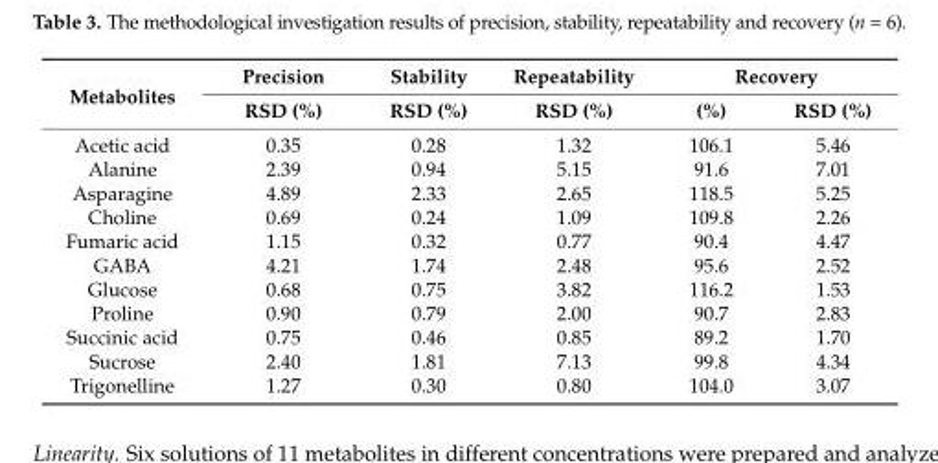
<table><thead><tr><td rowspan="2">Metabolites</td><td rowspan="2">Precision RSD (%)</td><td rowspan="2">Stability RSD (%)</td><td rowspan="2">Repeatability RSD (%)</td><td colspan="2">Recovery</td></tr><tr><td>(%)</td><td>RSD (%)</td></tr></thead><tbody><tr><td>Acetic acid</td><td>0.35</td><td>0.28</td><td>1.32</td><td>106.1</td><td>5.46</td></tr><tr><td>Alanine</td><td>2.39</td><td>0.94</td><td>5.15</td><td>91.6</td><td>7.01</td></tr><tr><td>Asparagine</td><td>4.89</td><td>2.33</td><td>2.65</td><td>118.5</td><td>5.25</td></tr><tr><td>Choline</td><td>0.69</td><td>0.24</td><td>1.09</td><td>109.8</td><td>2.26</td></tr><tr><td>Fumaric acid</td><td>1.15</td><td>0.32</td><td>0.77</td><td>90.4</td><td>4.47</td></tr><tr><td>GABA</td><td>4.21</td><td>1.74</td><td>2.48</td><td>95.6</td><td>2.52</td></tr><tr><td>Glucose</td><td>0.68</td><td>0.75</td><td>3.82</td><td>116.2</td><td>1.53</td></tr><tr><td>Proline</td><td>0.90</td><td>0.79</td><td>2.00</td><td>90.7</td><td>2.83</td></tr><tr><td>Succinic acid</td><td>0.75</td><td>0.46</td><td>0.85</td><td>89.2</td><td>1.70</td></tr><tr><td>Sucrose</td><td>2.40</td><td>1.81</td><td>7.13</td><td>99.8</td><td>4.34</td></tr><tr><td>Trigonelline</td><td>1.27</td><td>0.30</td><td>0.80</td><td>104.0</td><td>3.07</td></tr></tbody></table>